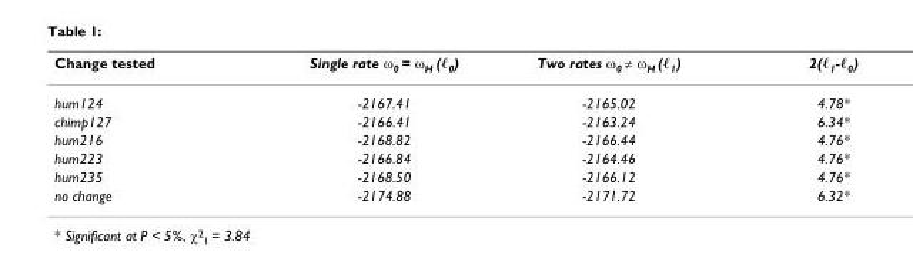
<table><thead><tr><td>Change tested</td><td>Single rate ω<sub>0</sub> = ω<sub>H</sub> (ℓ<sub>0</sub>)</td><td>Two rates ω<sub>0</sub> ≠ ω<sub>H</sub> (ℓ<sub>1</sub>)</td><td>2(ℓ<sub>1</sub>-ℓ<sub>0</sub>)</td></tr></thead><tbody><tr><td>hum124</td><td>-2167.41</td><td>-2165.02</td><td>4.78*</td></tr><tr><td>chimp127</td><td>-2166.41</td><td>-2163.24</td><td>6.34*</td></tr><tr><td>hum216</td><td>-2168.82</td><td>-2166.44</td><td>4.76*</td></tr><tr><td>hum223</td><td>-2166.84</td><td>-2164.46</td><td>4.76*</td></tr><tr><td>hum235</td><td>-2168.50</td><td>-2166.12</td><td>4.76*</td></tr><tr><td>no change</td><td>-2174.88</td><td>-2171.72</td><td>6.32*</td></tr></tbody></table>